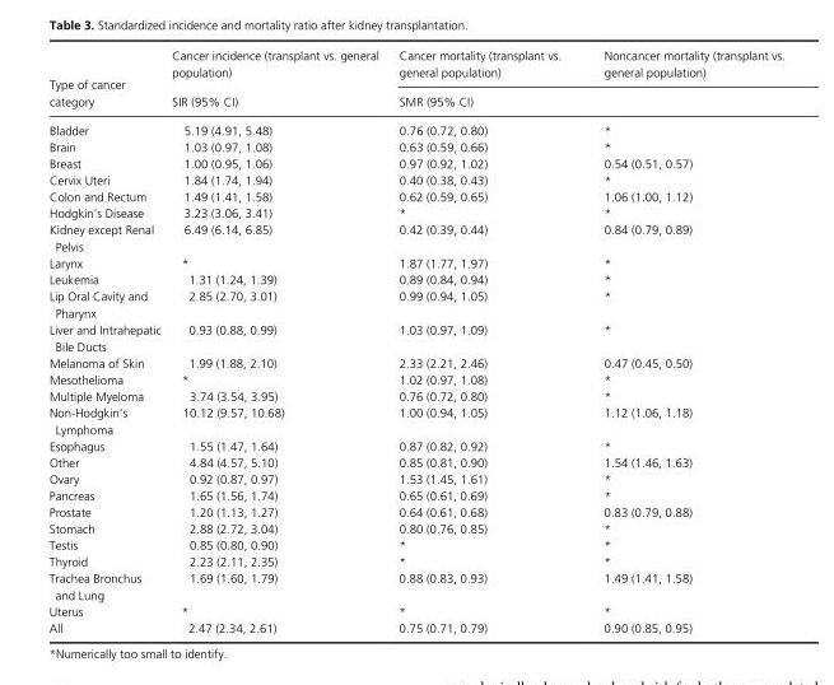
<table><thead><tr><td rowspan="2">Type of cancer category</td><td rowspan="2">Cancer incidence (transplant vs. general population) SIR (95% CI)</td><td>Cancer mortality (transplant vs. general population)</td><td>Noncancer mortality (transplant vs. general population)</td></tr><tr><td colspan="2">SMR (95% CI)</td></tr></thead><tbody><tr><td>Bladder</td><td>5.19 (4.91, 5.48)</td><td>0.76 (0.72, 0.80)</td><td>*</td></tr><tr><td>Brain</td><td>1.03 (0.97, 1.08)</td><td>0.63 (0.59, 0.66)</td><td>*</td></tr><tr><td>Breast</td><td>1.00 (0.95, 1.06)</td><td>0.97 (0.92, 1.02)</td><td>0.54 (0.51, 0.57)</td></tr><tr><td>Cervix Uteri</td><td>1.84 (1.74, 1.94)</td><td>0.40 (0.38, 0.43)</td><td>*</td></tr><tr><td>Colon and Rectum</td><td>1.49 (1.41, 1.58)</td><td>0.62 (0.59, 0.65)</td><td>1.06 (1.00, 1.12)</td></tr><tr><td>Hodgkin’s Disease</td><td>3.23 (3.06, 3.41)</td><td>*</td><td>*</td></tr><tr><td>Kidney except Renal Pelvis</td><td>6.49 (6.14, 6.85)</td><td>0.42 (0.39, 0.44)</td><td>0.84 (0.79, 0.89)</td></tr><tr><td>Larynx</td><td>*</td><td>1.87 (1.77, 1.97)</td><td>*</td></tr><tr><td>Leukemia</td><td>1.31 (1.24, 1.39)</td><td>0.89 (0.84, 0.94)</td><td>*</td></tr><tr><td>Lip Oral Cavity and Pharynx</td><td>2.85 (2.70, 3.01)</td><td>0.99 (0.94, 1.05)</td><td>*</td></tr><tr><td>Liver and Intrahepatic Bile Ducts</td><td>0.93 (0.88, 0.99)</td><td>1.03 (0.97, 1.09)</td><td>*</td></tr><tr><td>Melanoma of Skin</td><td>1.99 (1.88, 2.10)</td><td>2.33 (2.21, 2.46)</td><td>0.47 (0.45, 0.50)</td></tr><tr><td>Mesothelioma</td><td>*</td><td>1.02 (0.97, 1.08)</td><td>*</td></tr><tr><td>Multiple Myeloma</td><td>3.74 (3.54, 3.95)</td><td>0.76 (0.72, 0.80)</td><td>*</td></tr><tr><td>Non- Hodgkin’s Lymphoma</td><td>10.12 (9.57, 10.68)</td><td>1.00 (0.94, 1.05)</td><td>1.12 (1.06, 1.18)</td></tr><tr><td>Esophagus</td><td>1.55 (1.47, 1.64)</td><td>0.87 (0.82, 0.92)</td><td>*</td></tr><tr><td>Other</td><td>4.84 (4.57, 5.10)</td><td>0.85 (0.81, 0.90)</td><td>1.54 (1.46, 1.63)</td></tr><tr><td>Ovary</td><td>0.92 (0.87, 0.97)</td><td>1.53 (1.45, 1.61)</td><td>*</td></tr><tr><td>Pancreas</td><td>1.65 (1.56, 1.74)</td><td>0.65 (0.61, 0.69)</td><td>*</td></tr><tr><td>Prostate</td><td>1.20 (1.13, 1.27)</td><td>0.64 (0.61, 0.68)</td><td>0.83 (0.79, 0.88)</td></tr><tr><td>Stomach</td><td>2.88 (2.72, 3.04)</td><td>0.80 (0.76, 0.85)</td><td>*</td></tr><tr><td>Testis</td><td>0.85 (0.80, 0.90)</td><td>*</td><td>*</td></tr><tr><td>Thyroid</td><td>2.23 (2.11, 2.35)</td><td>*</td><td>*</td></tr><tr><td>Trachea Bronchus and Lung</td><td>1.69 (1.60, 1.79)</td><td>0.88 (0.83, 0.93)</td><td>1.49 (1.41, 1.58)</td></tr><tr><td>Uterus</td><td>*</td><td>*</td><td>*</td></tr><tr><td>All</td><td>2.47 (2.34, 2.61)</td><td>0.75 (0.71, 0.79)</td><td>0.90 (0.85, 0.95)</td></tr></tbody></table>